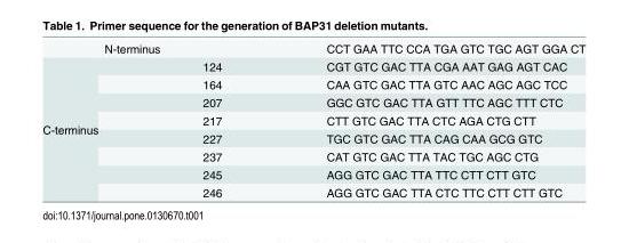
<table><tbody><tr><td colspan="2">N-terminus</td><td>CCT GAA TTC CCA TGA GTC TGC AGT GGA CT</td></tr><tr><td rowspan="8">C-terminus</td><td>124</td><td>CGT GTC GAC TTA CGA AAT GAG AGT CAC</td></tr><tr><td>164</td><td>CAA GTC GAC TTA GTC AAC AGC AGC TCC</td></tr><tr><td>207</td><td>GGC GTC GAC TTA GTT TTC AGC TTT CTC</td></tr><tr><td>217</td><td>CTT GTC GAC TTA CTC AGA CTG CTT</td></tr><tr><td>227</td><td>TGC GTC GAC TTA CAG CAA GCG GTC</td></tr><tr><td>237</td><td>CAT GTC GAC TTA TAC TGC AGC CTG</td></tr><tr><td>245</td><td>AGG GTC GAC TTA TTC CTT CTT GTC</td></tr><tr><td>246</td><td>AGG GTC GAC TTA CTC TTC CTT CTT GTC</td></tr></tbody></table>